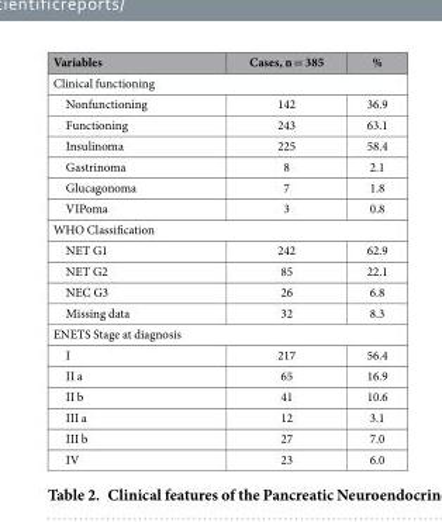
<table><thead><tr><td>Variables</td><td>Cases, n = 385</td><td>%</td></tr></thead><tbody><tr><td colspan="3">Clinical functioning</td></tr><tr><td>Nonfunctioning</td><td>142</td><td>36.9</td></tr><tr><td>Functioning</td><td>243</td><td>63.1</td></tr><tr><td>Insulinoma</td><td>225</td><td>58.4</td></tr><tr><td>Gastrinoma</td><td>8</td><td>2.1</td></tr><tr><td>Glucagonoma</td><td>7</td><td>1.8</td></tr><tr><td>VIPoma</td><td>3</td><td>0.8</td></tr><tr><td colspan="3">WHO Classification</td></tr><tr><td>NET G1</td><td>242</td><td>62.9</td></tr><tr><td>NET G2</td><td>85</td><td>22.1</td></tr><tr><td>NEC G3</td><td>26</td><td>6.8</td></tr><tr><td>Missing data</td><td>32</td><td>8.3</td></tr><tr><td colspan="3">ENETS Stage at diagnosis</td></tr><tr><td>I</td><td>217</td><td>56.4</td></tr><tr><td>II a</td><td>65</td><td>16.9</td></tr><tr><td>II b</td><td>41</td><td>10.6</td></tr><tr><td>III a</td><td>12</td><td>3.1</td></tr><tr><td>III b</td><td>27</td><td>7.0</td></tr><tr><td>IV</td><td>23</td><td>6.0</td></tr></tbody></table>